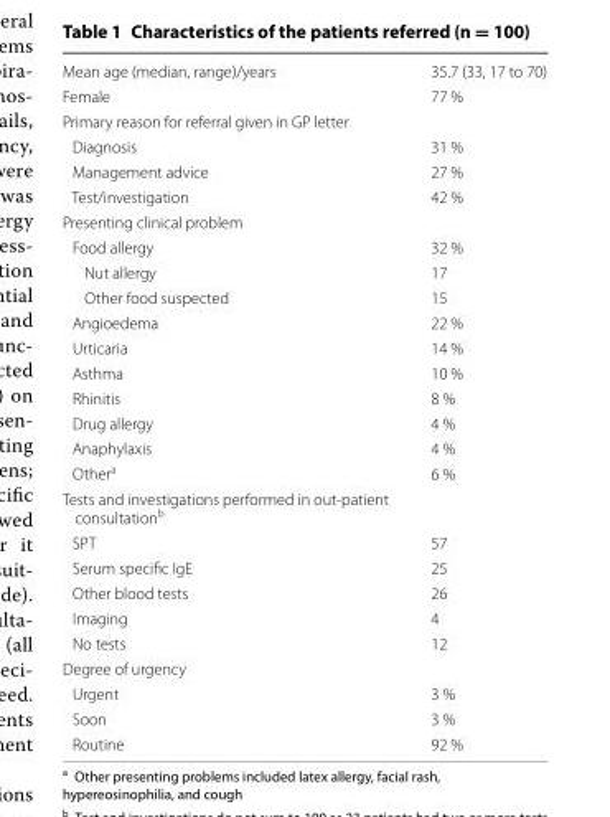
<table><tbody><tr><td>Mean age (median, range)/years</td><td>35.7 (33, 17 to 70)</td></tr><tr><td>Female</td><td>77 %</td></tr><tr><td colspan="2">Primary reason for referral given in GP letter</td></tr><tr><td>Diagnosis</td><td>31 %</td></tr><tr><td>Management advice</td><td>27 %</td></tr><tr><td>Test/investigation</td><td>42 %</td></tr><tr><td colspan="2">Presenting clinical problem</td></tr><tr><td>Food allergy</td><td>32 %</td></tr><tr><td>Nut allergy</td><td>17</td></tr><tr><td>Other food suspected</td><td>15</td></tr><tr><td>Angioedema</td><td>22 %</td></tr><tr><td>Urticaria</td><td>14 %</td></tr><tr><td>Asthma</td><td>10 %</td></tr><tr><td>Rhinitis</td><td>8 %</td></tr><tr><td>Drug allergy</td><td>4 %</td></tr><tr><td>Anaphylaxis</td><td>4 %</td></tr><tr><td>Other<sup>a</sup></td><td>6 %</td></tr><tr><td colspan="2">Tests and investigations performed in out-patient consultation<sup>b</sup></td></tr><tr><td>SPT</td><td>57</td></tr><tr><td>Serum specific IgE</td><td>25</td></tr><tr><td>Other blood tests</td><td>26</td></tr><tr><td>Imaging</td><td>4</td></tr><tr><td>No tests</td><td>12</td></tr><tr><td colspan="2">Degree of urgency</td></tr><tr><td>Urgent</td><td>3 %</td></tr><tr><td>Soon</td><td>3 %</td></tr><tr><td>Routine</td><td>92 %</td></tr></tbody></table>